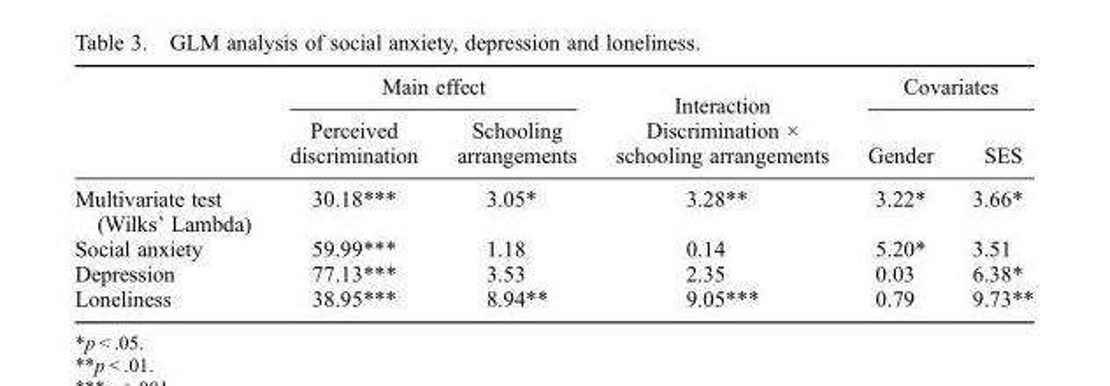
<table><thead><tr><td rowspan="2"></td><td colspan="2">Main effect</td><td rowspan="2">Interaction Discrimination × schooling arrangements</td><td colspan="2">Covariates</td></tr><tr><td>Perceived discrimination</td><td>Schooling arrangements</td><td>Gender</td><td>SES</td></tr></thead><tbody><tr><td>Multivariate test (Wilks’ Lambda)</td><td>30.18***</td><td>3.05*</td><td>3.28**</td><td>3.22*</td><td>3.66*</td></tr><tr><td>Social anxiety</td><td>59.99***</td><td>1.18</td><td>0.14</td><td>5.20*</td><td>3.51</td></tr><tr><td>Depression</td><td>77.13***</td><td>3.53</td><td>2.35</td><td>0.03</td><td>6.38*</td></tr><tr><td>Loneliness</td><td>38.95***</td><td>8.94**</td><td>9.05***</td><td>0.79</td><td>9.73**</td></tr></tbody></table>